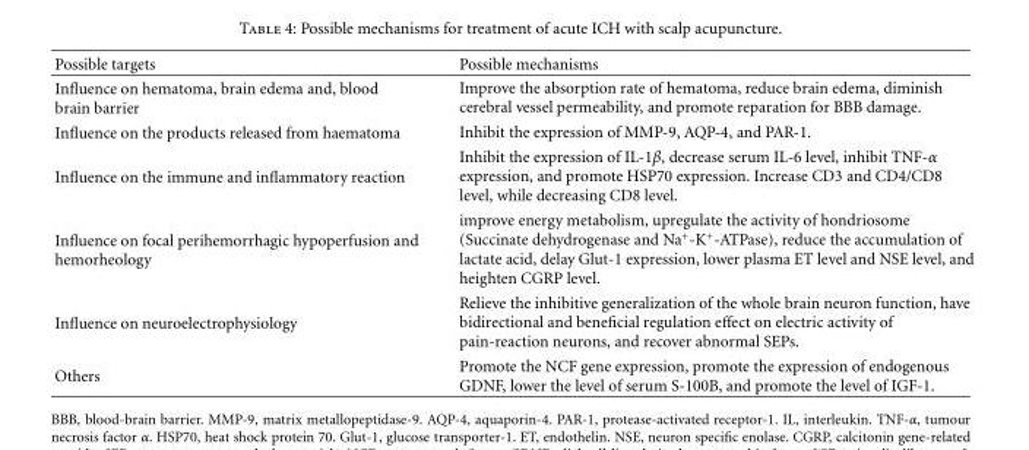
<table><thead><tr><td>Possible targets</td><td>Possible mechanisms</td></tr></thead><tbody><tr><td>Influence on hematoma, brain edema and, blood brain barrier</td><td>Improve the absorption rate of hematoma, reduce brain edema, diminish cerebral vessel permeability, and promote reparation for BBB damage.</td></tr><tr><td>Influence on the products released from haematoma</td><td>Inhibit the expression of MMP-9, AQP-4, and PAR-1.</td></tr><tr><td>Influence on the immune and inflammatory reaction</td><td>Inhibit the expression of IL-1β, decrease serum IL-6 level, inhibit TNF-α expression, and promote HSP70 expression. Increase CD3 and CD4/CD8 level, while decreasing CD8 level.</td></tr><tr><td>Influence on focal perihemorrhagic hypoperfusion and hemorheology</td><td>improve energy metabolism, upregulate the activity of hondriosome (Succinate dehydrogenase and Na<sup>+</sup>-K<sup>+</sup>-ATPase), reduce the accumulation of lactate acid, delay Glut-1 expression, lower plasma ET level and NSE level, and heighten CGRP level.</td></tr><tr><td>Influence on neuroelectrophysiology</td><td>Relieve the inhibitive generalization of the whole brain neuron function, have bidirectional and beneficial regulation effect on electric activity of pain-reaction neurons, and recover abnormal SEPs.</td></tr><tr><td>Others</td><td>Promote the NCF gene expression, promote the expression of endogenous GDNF, lower the level of serum S-100B, and promote the level of IGF-1.</td></tr></tbody></table>